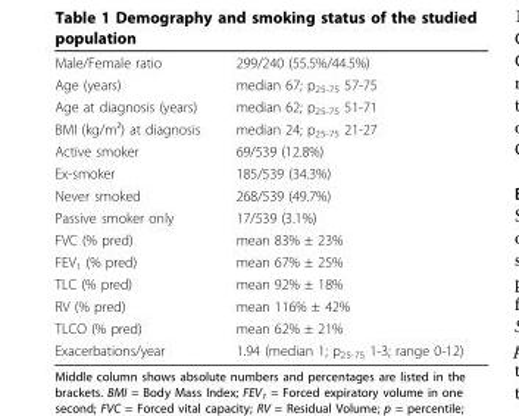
<table><tbody><tr><td>Male/Female ratio</td><td>299/240 (55.5%/44.5%)</td></tr><tr><td>Age (years)</td><td>median 67; p<sub>25-75</sub> 57-75</td></tr><tr><td>Age at diagnosis (years)</td><td>median 62; p<sub>25-75</sub> 51-71</td></tr><tr><td>BMI (kg/m²) at diagnosis</td><td>median 24; p<sub>25-75</sub> 21-27</td></tr><tr><td>Active smoker</td><td>69/539 (12.8%)</td></tr><tr><td>Ex-smoker</td><td>185/539 (34.3%)</td></tr><tr><td>Never smoked</td><td>268/539 (49.7%)</td></tr><tr><td>Passive smoker only</td><td>17/539 (3.1%)</td></tr><tr><td>FVC (% pred)</td><td>mean 83% ± 23%</td></tr><tr><td>FEV<sub>1</sub> (% pred)</td><td>mean 67% ± 25%</td></tr><tr><td>TLC (% pred)</td><td>mean 92% ± 18%</td></tr><tr><td>RV (% pred)</td><td>mean 116% ± 42%</td></tr><tr><td>TLCO (% pred)</td><td>mean 62% ± 21%</td></tr><tr><td>Exacerbations/year</td><td>1.94 (median 1; p<sub>25-75</sub> 1-3; range 0-12)</td></tr></tbody></table>